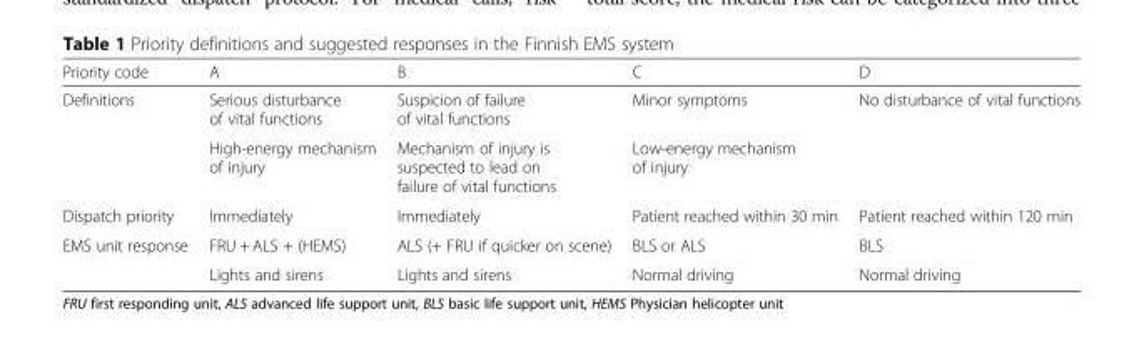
<table><thead><tr><td>Priority code</td><td>A</td><td>B</td><td>C</td><td>D</td></tr></thead><tbody><tr><td rowspan="2">Definitions</td><td>Serious disturbance of vital functions</td><td>Suspicion of failure of vital functions</td><td>Minor symptoms</td><td>No disturbance of vital functions</td></tr><tr><td>High-energy mechanism of injury</td><td>Mechanism of injury is suspected to lead on failure of vital functions</td><td>Low-energy mechanism of injury</td><td></td></tr><tr><td>Dispatch priority</td><td>Immediately</td><td>Immediately</td><td>Patient reached within 30 min</td><td>Patient reached within 120 min</td></tr><tr><td rowspan="2">EMS unit response</td><td>FRU + ALS + (HEMS)</td><td>ALS (+ FRU if quicker on scene)</td><td>BLS or ALS</td><td>BLS</td></tr><tr><td>Lights and sirens</td><td>Lights and sirens</td><td>Normal driving</td><td>Normal driving</td></tr></tbody></table>